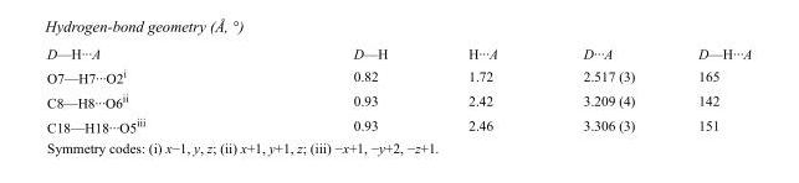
<table><tbody><tr><td>D—H···A</td><td>D—H</td><td>H···A</td><td>D···A</td><td>D—H···A</td></tr><tr><td>O7—H7···O2<sup>i</sup></td><td>0.82</td><td>1.72</td><td>2.517 (3)</td><td>165</td></tr><tr><td>C8—H8···O6<sup>ii</sup></td><td>0.93</td><td>2.42</td><td>3.209 (4)</td><td>142</td></tr><tr><td>C18—H18···O5<sup>iii</sup></td><td>0.93</td><td>2.46</td><td>3.306 (3)</td><td>151</td></tr></tbody></table>